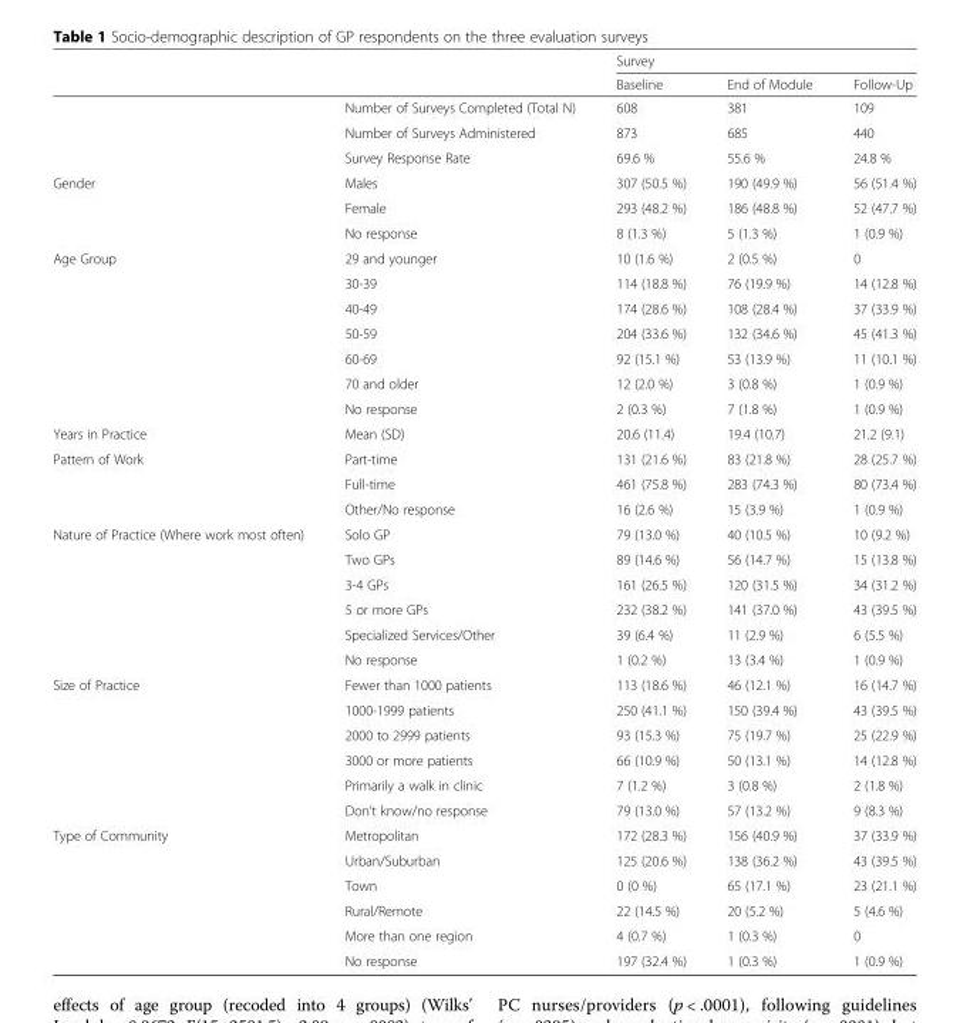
<table><thead><tr><td rowspan="2"></td><td rowspan="2"></td><td colspan="3">Survey</td></tr><tr><td>Baseline</td><td>End of Module</td><td>Follow-Up</td></tr></thead><tbody><tr><td rowspan="3"></td><td>Number of Surveys Completed (Total N)</td><td>608</td><td>381</td><td>109</td></tr><tr><td>Number of Surveys Administered</td><td>873</td><td>685</td><td>440</td></tr><tr><td>Survey Response Rate</td><td>69.6 %</td><td>55.6 %</td><td>24.8 %</td></tr><tr><td rowspan="3">Gender</td><td>Males</td><td>307 (50.5 %)</td><td>190 (49.9 %)</td><td>56 (51.4 %)</td></tr><tr><td>Female</td><td>293 (48.2 %)</td><td>186 (48.8 %)</td><td>52 (47.7 %)</td></tr><tr><td>No response</td><td>8 (1.3 %)</td><td>5 (1.3 %)</td><td>1 (0.9 %)</td></tr><tr><td rowspan="7">Age Group</td><td>29 and younger</td><td>10 (1.6 %)</td><td>2 (0.5 %)</td><td>0</td></tr><tr><td>30-39</td><td>114 (18.8 %)</td><td>76 (19.9 %)</td><td>14 (12.8 %)</td></tr><tr><td>40-49</td><td>174 (28.6 %)</td><td>108 (28.4 %)</td><td>37 (33.9 %)</td></tr><tr><td>50-59</td><td>204 (33.6 %)</td><td>132 (34.6 %)</td><td>45 (41.3 %)</td></tr><tr><td>60-69</td><td>92 (15.1 %)</td><td>53 (13.9 %)</td><td>11 (10.1 %)</td></tr><tr><td>70 and older</td><td>12 (2.0 %)</td><td>3 (0.8 %)</td><td>1 (0.9 %)</td></tr><tr><td>No response</td><td>2 (0.3 %)</td><td>7 (1.8 %)</td><td>1 (0.9 %)</td></tr><tr><td>Years in Practice</td><td>Mean (SD)</td><td>20.6 (11.4)</td><td>19.4 (10.7)</td><td>21.2 (9.1)</td></tr><tr><td rowspan="3">Pattern of Work</td><td>Part-time</td><td>131 (21.6 %)</td><td>83 (21.8 %)</td><td>28 (25.7 %)</td></tr><tr><td>Full-time</td><td>461 (75.8 %)</td><td>283 (74.3 %)</td><td>80 (73.4 %)</td></tr><tr><td>Other/No response</td><td>16 (2.6 %)</td><td>15 (3.9 %)</td><td>1 (0.9 %)</td></tr><tr><td rowspan="6">Nature of Practice (Where work most often)</td><td>Solo GP</td><td>79 (13.0 %)</td><td>40 (10.5 %)</td><td>10 (9.2 %)</td></tr><tr><td>Two GPs</td><td>89 (14.6 %)</td><td>56 (14.7 %)</td><td>15 (13.8 %)</td></tr><tr><td>3-4 GPs</td><td>161 (26.5 %)</td><td>120 (31.5 %)</td><td>34 (31.2 %)</td></tr><tr><td>5 or more GPs</td><td>232 (38.2 %)</td><td>141 (37.0 %)</td><td>43 (39.5 %)</td></tr><tr><td>Specialized Services/Other</td><td>39 (6.4 %)</td><td>11 (2.9 %)</td><td>6 (5.5 %)</td></tr><tr><td>No response</td><td>1 (0.2 %)</td><td>13 (3.4 %)</td><td>1 (0.9 %)</td></tr><tr><td rowspan="6">Size of Practice</td><td>Fewer than 1000 patients</td><td>113 (18.6 %)</td><td>46 (12.1 %)</td><td>16 (14.7 %)</td></tr><tr><td>1000-1999 patients</td><td>250 (41.1 %)</td><td>150 (39.4 %)</td><td>43 (39.5 %)</td></tr><tr><td>2000 to 2999 patients</td><td>93 (15.3 %)</td><td>75 (19.7 %)</td><td>25 (22.9 %)</td></tr><tr><td>3000 or more patients</td><td>66 (10.9 %)</td><td>50 (13.1 %)</td><td>14 (12.8 %)</td></tr><tr><td>Primarily a walk in clinic</td><td>7 (1.2 %)</td><td>3 (0.8 %)</td><td>2 (1.8 %)</td></tr><tr><td>Don’t know/no response</td><td>79 (13.0 %)</td><td>57 (13.2 %)</td><td>9 (8.3 %)</td></tr><tr><td rowspan="6">Type of Community</td><td>Metropolitan</td><td>172 (28.3 %)</td><td>156 (40.9 %)</td><td>37 (33.9 %)</td></tr><tr><td>Urban/Suburban</td><td>125 (20.6 %)</td><td>138 (36.2 %)</td><td>43 (39.5 %)</td></tr><tr><td>Town</td><td>0 (0 %)</td><td>65 (17.1 %)</td><td>23 (21.1 %)</td></tr><tr><td>Rural/Remote</td><td>22 (14.5 %)</td><td>20 (5.2 %)</td><td>5 (4.6 %)</td></tr><tr><td>More than one region</td><td>4 (0.7 %)</td><td>1 (0.3 %)</td><td>0</td></tr><tr><td>No response</td><td>197 (32.4 %)</td><td>1 (0.3 %)</td><td>1 (0.9 %)</td></tr></tbody></table>